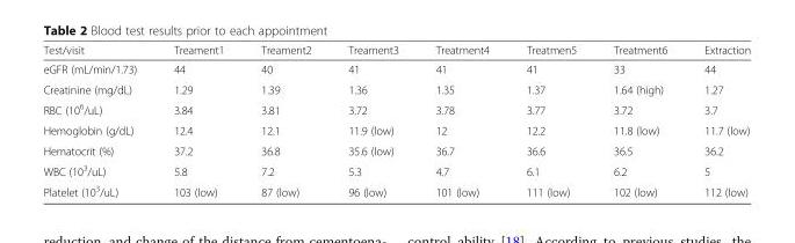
<table><thead><tr><td>Test/visit</td><td>Treament1</td><td>Treament2</td><td>Treament3</td><td>Treatment4</td><td>Treatmen5</td><td>Treatment6</td><td>Extraction</td></tr></thead><tbody><tr><td>eGFR (mL/min/1.73)</td><td>44</td><td>40</td><td>41</td><td>41</td><td>41</td><td>33</td><td>44</td></tr><tr><td>Creatinine (mg/dL)</td><td>1.29</td><td>1.39</td><td>1.36</td><td>1.35</td><td>1.37</td><td>1.64 (high)</td><td>1.27</td></tr><tr><td>RBC (10<sup>6</sup>/uL)</td><td>3.84</td><td>3.81</td><td>3.72</td><td>3.78</td><td>3.77</td><td>3.72</td><td>3.7</td></tr><tr><td>Hemoglobin (g/dL)</td><td>12.4</td><td>12.1</td><td>11.9 (low)</td><td>12</td><td>12.2</td><td>11.8 (low)</td><td>11.7 (low)</td></tr><tr><td>Hematocrit (%)</td><td>37.2</td><td>36.8</td><td>35.6 (low)</td><td>36.7</td><td>36.6</td><td>36.5</td><td>36.2</td></tr><tr><td>WBC (10<sup>3</sup>/uL)</td><td>5.8</td><td>7.2</td><td>5.3</td><td>4.7</td><td>6.1</td><td>6.2</td><td>5</td></tr><tr><td>Platelet (10<sup>3</sup>/uL)</td><td>103 (low)</td><td>87 (low)</td><td>96 (low)</td><td>101 (low)</td><td>111 (low)</td><td>102 (low)</td><td>112 (low)</td></tr></tbody></table>